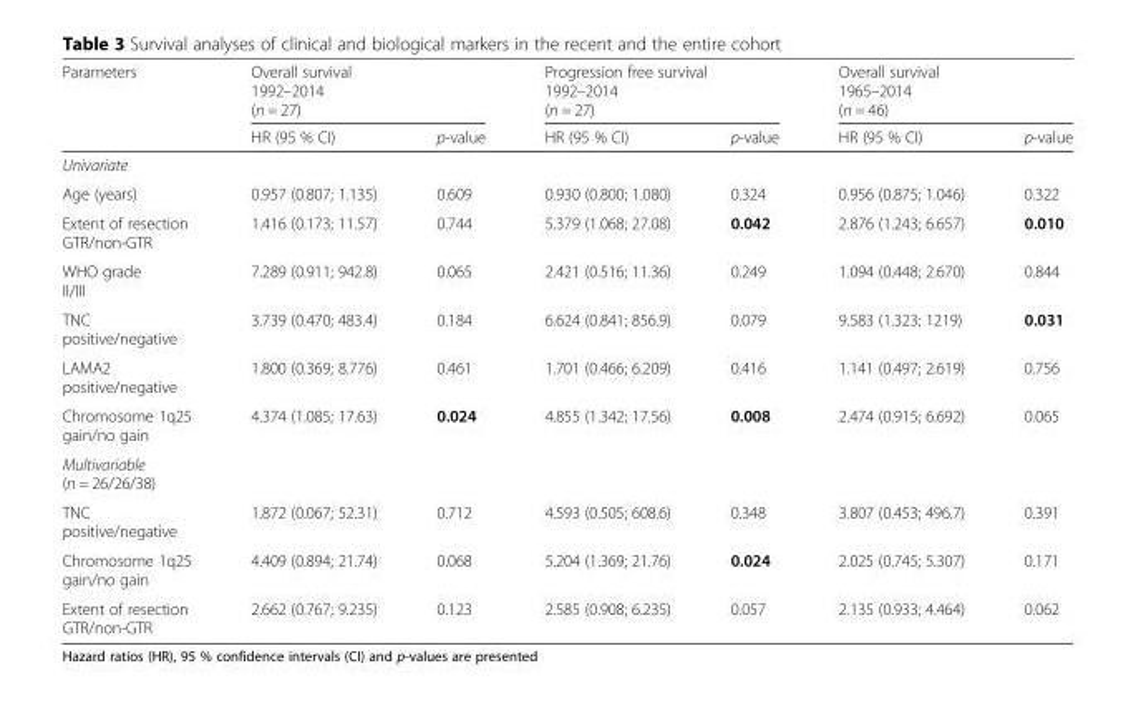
<table><thead><tr><td rowspan="4">Parameters</td><td rowspan="3" colspan="2">Overall survival 1992–2014 (n = 27)</td><td rowspan="3" colspan="2">Progression free survival 1992–2014 (n = 27)</td><td rowspan="3" colspan="2">Overall survival 1965–2014 (n = 46)</td></tr><tr></tr><tr></tr><tr><td>HR (95 % CI)</td><td>p-value</td><td>HR (95 % CI)</td><td>p-value</td><td>HR (95 % CI)</td><td>p-value</td></tr></thead><tbody><tr><td colspan="7">Univariate</td></tr><tr><td>Age (years)</td><td>0.957 (0.807; 1.135)</td><td>0.609</td><td>0.930 (0.800; 1.080)</td><td>0.324</td><td>0.956 (0.875; 1.046)</td><td>0.322</td></tr><tr><td>Extent of resection GTR/non-GTR</td><td>1.416 (0.173; 11.57)</td><td>0.744</td><td>5.379 (1.068; 27.08)</td><td>0.042</td><td>2.876 (1.243; 6.657)</td><td>0.010</td></tr><tr><td>WHO grade II/III</td><td>7.289 (0.911; 942.8)</td><td>0.065</td><td>2.421 (0.516; 11.36)</td><td>0.249</td><td>1.094 (0.448; 2.670)</td><td>0.844</td></tr><tr><td>TNC positive/negative</td><td>3.739 (0.470; 483.4)</td><td>0.184</td><td>6.624 (0.841; 856.9)</td><td>0.079</td><td>9.583 (1.323; 1219)</td><td>0.031</td></tr><tr><td>LAMA2 positive/negative</td><td>1.800 (0.369; 8.776)</td><td>0.461</td><td>1.701 (0.466; 6.209)</td><td>0.416</td><td>1.141 (0.497; 2.619)</td><td>0.756</td></tr><tr><td>Chromosome 1q25 gain/no gain</td><td>4.374 (1.085; 17.63)</td><td>0.024</td><td>4.855 (1.342; 17.56)</td><td>0.008</td><td>2.474 (0.915; 6.692)</td><td>0.065</td></tr><tr><td colspan="7">Multivariable (n = 26/26/38)</td></tr><tr><td>TNC positive/negative</td><td>1.872 (0.067; 52.31)</td><td>0.712</td><td>4.593 (0.505; 608.6)</td><td>0.348</td><td>3.807 (0.453; 496.7)</td><td>0.391</td></tr><tr><td>Chromosome 1q25 gain/no gain</td><td>4.409 (0.894; 21.74)</td><td>0.068</td><td>5.204 (1.369; 21.76)</td><td>0.024</td><td>2.025 (0.745; 5.307)</td><td>0.171</td></tr><tr><td>Extent of resection GTR/non-GTR</td><td>2.662 (0.767; 9.235)</td><td>0.123</td><td>2.585 (0.908; 6.235)</td><td>0.057</td><td>2.135 (0.933; 4.464)</td><td>0.062</td></tr></tbody></table>